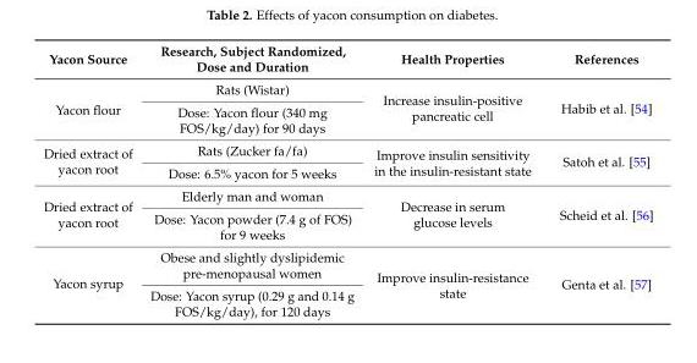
<table><thead><tr><td>Yacon Source</td><td>Research, Subject Randomized, Dose and Duration</td><td>Health Properties</td><td>References</td></tr></thead><tbody><tr><td rowspan="2">Yacon flour</td><td>Rats (Wistar)</td><td rowspan="2">Increase insulin-positive pancreatic cell</td><td rowspan="2">Habib et al. [54]</td></tr><tr><td>Dose: Yacon flour (340 mg FOS/kg/day) for 90 days</td></tr><tr><td rowspan="2">Dried extract of yacon root</td><td>Rats (Zucker fa/fa)</td><td rowspan="2">Improve insulin sensitivity in the insulin-resistant state</td><td rowspan="2">Satoh et al. [55]</td></tr><tr><td>Dose: 6.5% yacon for 5 weeks</td></tr><tr><td rowspan="2">Dried extract of yacon root</td><td>Elderly man and woman</td><td rowspan="2">Decrease in serum glucose levels</td><td rowspan="2">Scheid et al. [56]</td></tr><tr><td>Dose: Yacon powder (7.4 g of FOS) for 9 weeks</td></tr><tr><td rowspan="2">Yacon syrup</td><td>Obese and slightly dyslipidemic pre-menopausal women</td><td rowspan="2">Improve insulin-resistance state</td><td rowspan="2">Genta et al. [57]</td></tr><tr><td>Dose: Yacon syrup (0.29 g and 0.14 g FOS/kg/day), for 120 days</td></tr></tbody></table>